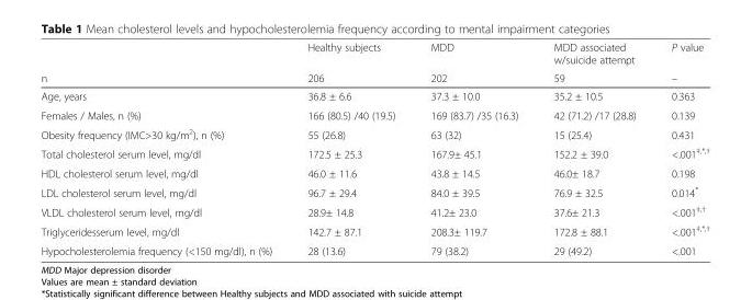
<table><thead><tr><td rowspan="2">n</td><td rowspan="2">Healthy subjects 206</td><td rowspan="2">MDD 202</td><td rowspan="2">MDD associated w/suicide attempt 59</td><td rowspan="2">P value –</td></tr><tr></tr></thead><tbody><tr><td>Age, years</td><td>36.8 ± 6.6</td><td>37.3 ± 10.0</td><td>35.2 ± 10.5</td><td>0.363</td></tr><tr><td>Females / Males, n (%)</td><td>166 (80.5) /40 (19.5)</td><td>169 (83.7) /35 (16.3)</td><td>42 (71.2) /17 (28.8)</td><td>0.139</td></tr><tr><td>Obesity frequency (IMC&gt;30 kg/m<sup>2</sup>), n (%)</td><td>55 (26.8)</td><td>63 (32)</td><td>15 (25.4)</td><td>0.431</td></tr><tr><td>Total cholesterol serum level, mg/dl</td><td>172.5 ± 25.3</td><td>167.9± 45.1</td><td>152.2 ± 39.0</td><td>&lt;.001<sup>‡,*,†</sup></td></tr><tr><td>HDL cholesterol serum level, mg/dl</td><td>46.0 ± 11.6</td><td>43.8 ± 14.5</td><td>46.0± 18.7</td><td>0.198</td></tr><tr><td>LDL cholesterol serum level, mg/dl</td><td>96.7 ± 29.4</td><td>84.0 ± 39.5</td><td>76.9 ± 32.5</td><td>0.014*</td></tr><tr><td>VLDL cholesterol serum level, mg/dl</td><td>28.9± 14.8</td><td>41.2± 23.0</td><td>37.6± 21.3</td><td>&lt;.001<sup>‡,†</sup></td></tr><tr><td>Triglyceridesserum level, mg/dl</td><td>142.7 ± 87.1</td><td>208.3± 119.7</td><td>172.8 ± 88.1</td><td>&lt;.001<sup>‡,*,†</sup></td></tr><tr><td>Hypocholesterolemia frequency (&lt;150 mg/dl), n (%)</td><td>28 (13.6)</td><td>79 (38.2)</td><td>29 (49.2)</td><td>&lt;.001</td></tr></tbody></table>